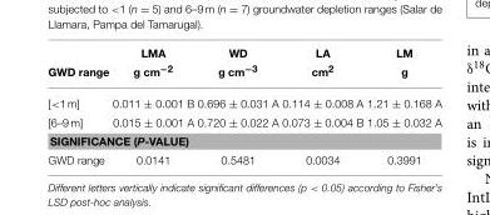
<table><thead><tr><td rowspan="2">GWD range</td><td rowspan="2">LMA g cm<sup>−2</sup></td><td rowspan="2">WD g cm<sup>−3</sup></td><td rowspan="2">LA cm<sup>2</sup></td><td rowspan="2">LM g</td></tr><tr></tr></thead><tbody><tr><td>[&lt;1 m]</td><td>0.011 ± 0.001 B</td><td>0.696 ± 0.031 A</td><td>0.114 ± 0.008 A</td><td>1.21 ± 0.168 A</td></tr><tr><td>[6–9 m]</td><td>0.015 ± 0.001 A</td><td>0.720 ± 0.022 A</td><td>0.073 ± 0.004 B</td><td>1.05 ± 0.032 A</td></tr><tr><td colspan="5">SIGNIFICANCE (P-VALUE)</td></tr><tr><td>GWD range</td><td>0.0141</td><td>0.5481</td><td>0.0034</td><td>0.3991</td></tr></tbody></table>